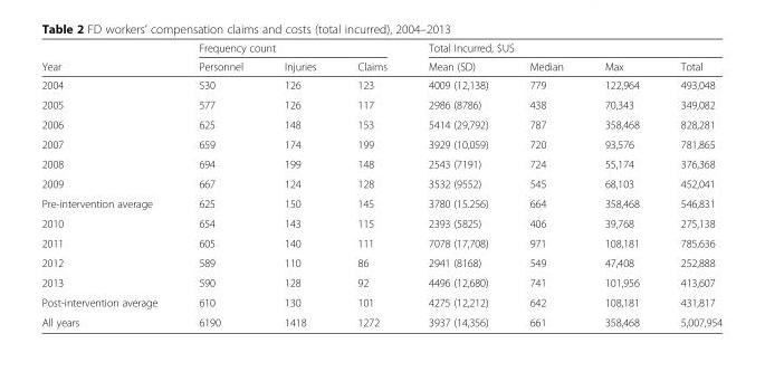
<table><thead><tr><td rowspan="2">Year</td><td colspan="3">Frequency count</td><td colspan="4">Total Incurred, $US</td></tr><tr><td>Personnel</td><td>Injuries</td><td>Claims</td><td>Mean (SD)</td><td>Median</td><td>Max</td><td>Total</td></tr></thead><tbody><tr><td>2004</td><td>530</td><td>126</td><td>123</td><td>4009 (12,138)</td><td>779</td><td>122,964</td><td>493,048</td></tr><tr><td>2005</td><td>577</td><td>126</td><td>117</td><td>2986 (8786)</td><td>438</td><td>70,343</td><td>349,082</td></tr><tr><td>2006</td><td>625</td><td>148</td><td>153</td><td>5414 (29,792)</td><td>787</td><td>358,468</td><td>828,281</td></tr><tr><td>2007</td><td>659</td><td>174</td><td>199</td><td>3929 (10,059)</td><td>720</td><td>93,576</td><td>781,865</td></tr><tr><td>2008</td><td>694</td><td>199</td><td>148</td><td>2543 (7191)</td><td>724</td><td>55,174</td><td>376,368</td></tr><tr><td>2009</td><td>667</td><td>124</td><td>128</td><td>3532 (9552)</td><td>545</td><td>68,103</td><td>452,041</td></tr><tr><td>Pre-intervention average</td><td>625</td><td>150</td><td>145</td><td>3780 (15.256)</td><td>664</td><td>358,468</td><td>546,831</td></tr><tr><td>2010</td><td>654</td><td>143</td><td>115</td><td>2393 (5825)</td><td>406</td><td>39,768</td><td>275,138</td></tr><tr><td>2011</td><td>605</td><td>140</td><td>111</td><td>7078 (17,708)</td><td>971</td><td>108,181</td><td>785,636</td></tr><tr><td>2012</td><td>589</td><td>110</td><td>86</td><td>2941 (8168)</td><td>549</td><td>47,408</td><td>252,888</td></tr><tr><td>2013</td><td>590</td><td>128</td><td>92</td><td>4496 (12,680)</td><td>741</td><td>101,956</td><td>413,607</td></tr><tr><td>Post-intervention average</td><td>610</td><td>130</td><td>101</td><td>4275 (12,212)</td><td>642</td><td>108,181</td><td>431,817</td></tr><tr><td>All years</td><td>6190</td><td>1418</td><td>1272</td><td>3937 (14,356)</td><td>661</td><td>358,468</td><td>5,007,954</td></tr></tbody></table>